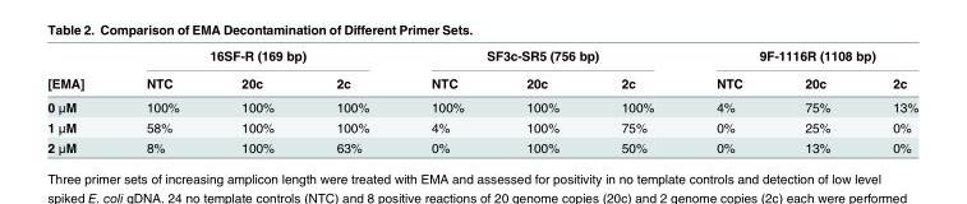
<table><thead><tr><td rowspan="2">[EMA]</td><td colspan="3">16SF-R (169 bp)</td><td colspan="3">SF3c-SR5 (756 bp)</td><td colspan="3">9F-1116R (1108 bp)</td></tr><tr><td>NTC</td><td>20c</td><td>2c</td><td>NTC</td><td>20c</td><td>2c</td><td>NTC</td><td>20c</td><td>2c</td></tr></thead><tbody><tr><td>0 μM</td><td>100%</td><td>100%</td><td>100%</td><td>100%</td><td>100%</td><td>100%</td><td>4%</td><td>75%</td><td>13%</td></tr><tr><td>1 μM</td><td>58%</td><td>100%</td><td>100%</td><td>4%</td><td>100%</td><td>75%</td><td>0%</td><td>25%</td><td>0%</td></tr><tr><td>2 μM</td><td>8%</td><td>100%</td><td>63%</td><td>0%</td><td>100%</td><td>50%</td><td>0%</td><td>13%</td><td>0%</td></tr></tbody></table>